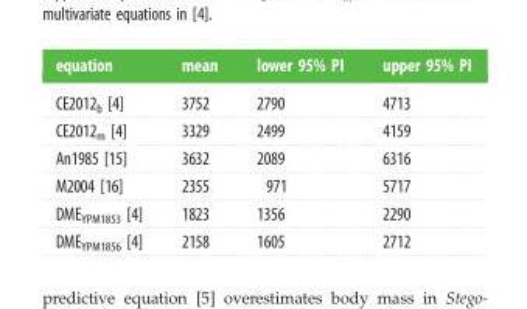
<table><thead><tr><td>equation</td><td>mean</td><td>lower 95% PI</td><td>upper 95% PI</td></tr></thead><tbody><tr><td>CE2012<sub>b</sub> [4]</td><td>3752</td><td>2790</td><td>4713</td></tr><tr><td>CE2012<sub>m</sub> [4]</td><td>3329</td><td>2499</td><td>4159</td></tr><tr><td>An1985 [15]</td><td>3632</td><td>2089</td><td>6316</td></tr><tr><td>M2004 [16]</td><td>2355</td><td>971</td><td>5717</td></tr><tr><td>DME<sub>YPM1853</sub> [4]</td><td>1823</td><td>1356</td><td>2290</td></tr><tr><td>DME<sub>YPM1856</sub> [4]</td><td>2158</td><td>1605</td><td>2712</td></tr></tbody></table>